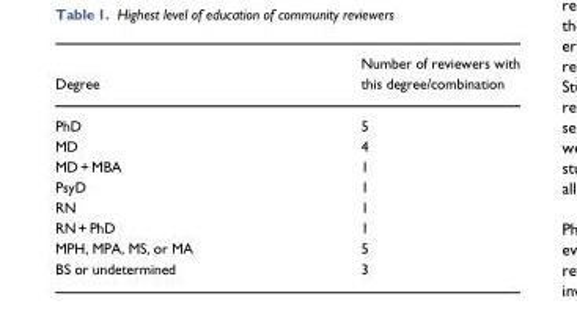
<table><thead><tr><td>Degree</td><td>Number of reviewers with this degree/combination</td></tr></thead><tbody><tr><td>PhD</td><td>5</td></tr><tr><td>MD</td><td>4</td></tr><tr><td>MD + MBA</td><td>1</td></tr><tr><td>PsyD</td><td>1</td></tr><tr><td>RN</td><td>1</td></tr><tr><td>RN + PhD</td><td>1</td></tr><tr><td>MPH, MPA, MS, or MA</td><td>5</td></tr><tr><td>BS or undetermined</td><td>3</td></tr></tbody></table>